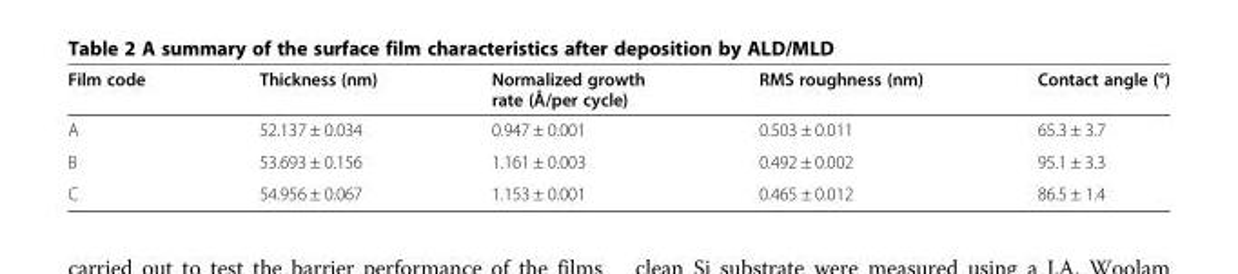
<table><thead><tr><td>Film code</td><td>Thickness (nm)</td><td>Normalized growth rate (Å/per cycle)</td><td>RMS roughness (nm)</td><td>Contact angle (°)</td></tr></thead><tbody><tr><td>A</td><td>52.137 ± 0.034</td><td>0.947 ± 0.001</td><td>0.503 ± 0.011</td><td>65.3 ± 3.7</td></tr><tr><td>B</td><td>53.693 ± 0.156</td><td>1.161 ± 0.003</td><td>0.492 ± 0.002</td><td>95.1 ± 3.3</td></tr><tr><td>C</td><td>54.956 ± 0.067</td><td>1.153 ± 0.001</td><td>0.465 ± 0.012</td><td>86.5 ± 1.4</td></tr></tbody></table>